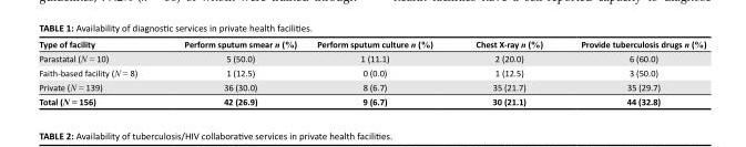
<table><thead><tr><td>Type of facility</td><td>Perform sputum smear n (%)</td><td>Perform sputum culture n (%)</td><td>Chest X-ray n (%)</td><td>Provide tuberculosis drugs n (%)</td></tr></thead><tbody><tr><td>Parastatal (N = 10)</td><td>5 (50.0)</td><td>1 (11.1)</td><td>2 (20.0)</td><td>6 (60.0)</td></tr><tr><td>Faith-based facility (N = 8)</td><td>1 (12.5)</td><td>0 (0.0)</td><td>1 (12.5)</td><td>3 (50.0)</td></tr><tr><td>Private (N = 139)</td><td>36 (30.0)</td><td>8 (6.7)</td><td>35 (21.7)</td><td>35 (29.7)</td></tr><tr><td>Total (N = 156)</td><td>42 (26.9)</td><td>9 (6.7)</td><td>30 (21.1)</td><td>44 (32.8)</td></tr></tbody></table>